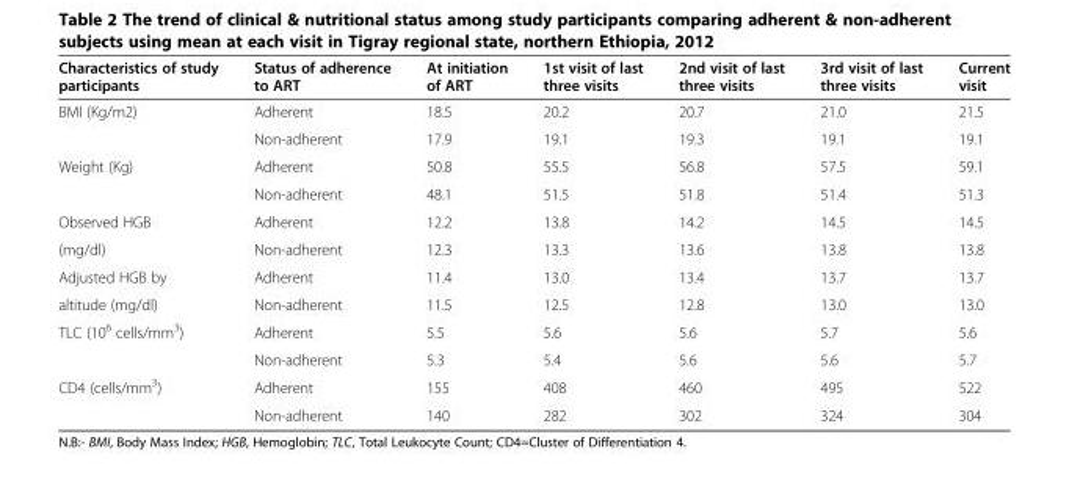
<table><thead><tr><td>Characteristics of study participants</td><td>Status of adherence to ART</td><td>At initiation of ART</td><td>1st visit of last three visits</td><td>2nd visit of last three visits</td><td>3rd visit of last three visits</td><td>Current visit</td></tr></thead><tbody><tr><td rowspan="2">BMI (Kg/m2)</td><td>Adherent</td><td>18.5</td><td>20.2</td><td>20.7</td><td>21.0</td><td>21.5</td></tr><tr><td>Non-adherent</td><td>17.9</td><td>19.1</td><td>19.3</td><td>19.1</td><td>19.1</td></tr><tr><td rowspan="2">Weight (Kg)</td><td>Adherent</td><td>50.8</td><td>55.5</td><td>56.8</td><td>57.5</td><td>59.1</td></tr><tr><td>Non-adherent</td><td>48.1</td><td>51.5</td><td>51.8</td><td>51.4</td><td>51.3</td></tr><tr><td>Observed HGB</td><td>Adherent</td><td>12.2</td><td>13.8</td><td>14.2</td><td>14.5</td><td>14.5</td></tr><tr><td>(mg/dl)</td><td>Non-adherent</td><td>12.3</td><td>13.3</td><td>13.6</td><td>13.8</td><td>13.8</td></tr><tr><td>Adjusted HGB by</td><td>Adherent</td><td>11.4</td><td>13.0</td><td>13.4</td><td>13.7</td><td>13.7</td></tr><tr><td>altitude (mg/dl)</td><td>Non-adherent</td><td>11.5</td><td>12.5</td><td>12.8</td><td>13.0</td><td>13.0</td></tr><tr><td rowspan="2">TLC (10<sup>6</sup> cells/mm<sup>3</sup>)</td><td>Adherent</td><td>5.5</td><td>5.6</td><td>5.6</td><td>5.7</td><td>5.6</td></tr><tr><td>Non-adherent</td><td>5.3</td><td>5.4</td><td>5.6</td><td>5.6</td><td>5.7</td></tr><tr><td rowspan="2">CD4 (cells/mm<sup>3</sup>)</td><td>Adherent</td><td>155</td><td>408</td><td>460</td><td>495</td><td>522</td></tr><tr><td>Non-adherent</td><td>140</td><td>282</td><td>302</td><td>324</td><td>304</td></tr></tbody></table>